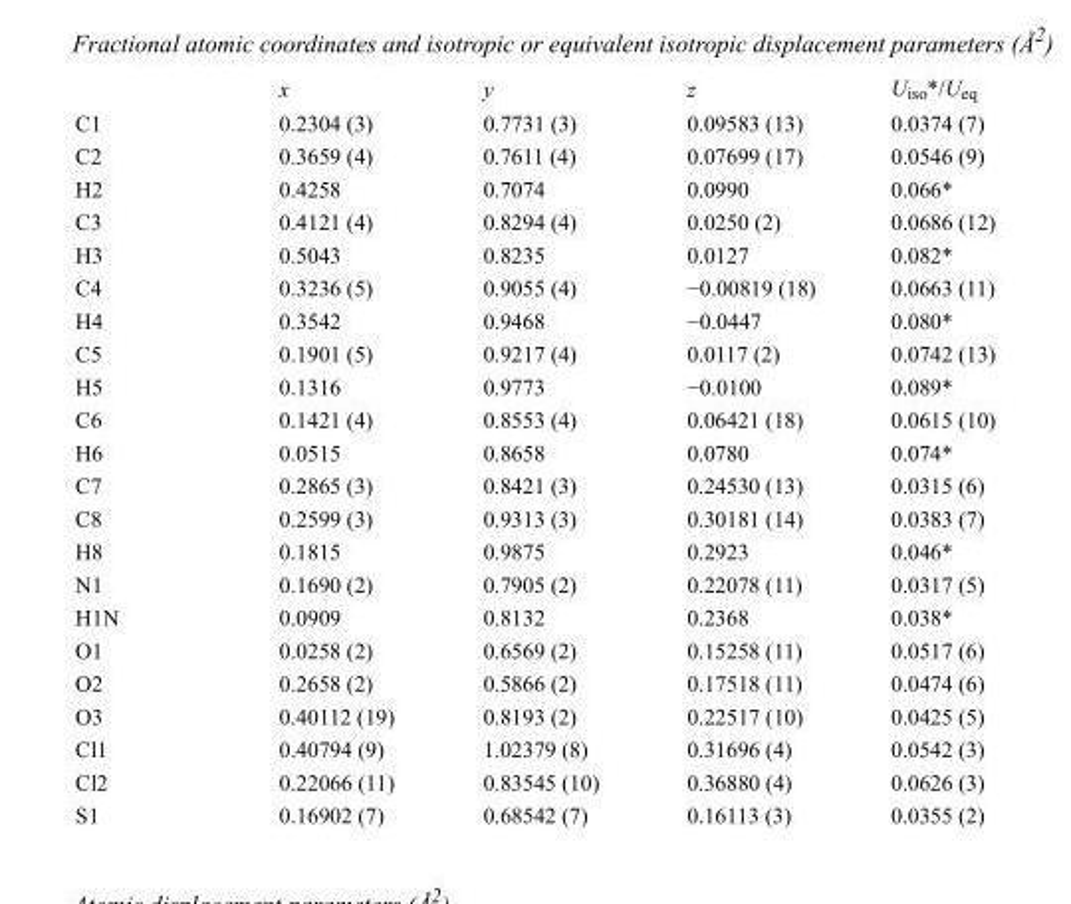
<table><thead><tr><td></td><td>x</td><td>y</td><td>z</td><td>U<sub>iso</sub>*/U<sub>eq</sub></td></tr></thead><tbody><tr><td>C1</td><td>0.2304 (3)</td><td>0.7731 (3)</td><td>0.09583 (13)</td><td>0.0374 (7)</td></tr><tr><td>C2</td><td>0.3659 (4)</td><td>0.7611 (4)</td><td>0.07699 (17)</td><td>0.0546 (9)</td></tr><tr><td>H2</td><td>0.4258</td><td>0.7074</td><td>0.0990</td><td>0.066*</td></tr><tr><td>C3</td><td>0.4121 (4)</td><td>0.8294 (4)</td><td>0.0250 (2)</td><td>0.0686 (12)</td></tr><tr><td>H3</td><td>0.5043</td><td>0.8235</td><td>0.0127</td><td>0.082*</td></tr><tr><td>C4</td><td>0.3236 (5)</td><td>0.9055 (4)</td><td>−0.00819 (18)</td><td>0.0663 (11)</td></tr><tr><td>H4</td><td>0.3542</td><td>0.9468</td><td>−0.0447</td><td>0.080*</td></tr><tr><td>C5</td><td>0.1901 (5)</td><td>0.9217 (4)</td><td>0.0117 (2)</td><td>0.0742 (13)</td></tr><tr><td>H5</td><td>0.1316</td><td>0.9773</td><td>−0.0100</td><td>0.089*</td></tr><tr><td>C6</td><td>0.1421 (4)</td><td>0.8553 (4)</td><td>0.06421 (18)</td><td>0.0615 (10)</td></tr><tr><td>H6</td><td>0.0515</td><td>0.8658</td><td>0.0780</td><td>0.074*</td></tr><tr><td>C7</td><td>0.2865 (3)</td><td>0.8421 (3)</td><td>0.24530 (13)</td><td>0.0315 (6)</td></tr><tr><td>C8</td><td>0.2599 (3)</td><td>0.9313 (3)</td><td>0.30181 (14)</td><td>0.0383 (7)</td></tr><tr><td>H8</td><td>0.1815</td><td>0.9875</td><td>0.2923</td><td>0.046*</td></tr><tr><td>N1</td><td>0.1690 (2)</td><td>0.7905 (2)</td><td>0.22078 (11)</td><td>0.0317 (5)</td></tr><tr><td>H1N</td><td>0.0909</td><td>0.8132</td><td>0.2368</td><td>0.038*</td></tr><tr><td>O1</td><td>0.0258 (2)</td><td>0.6569 (2)</td><td>0.15258 (11)</td><td>0.0517 (6)</td></tr><tr><td>O2</td><td>0.2658 (2)</td><td>0.5866 (2)</td><td>0.17518 (11)</td><td>0.0474 (6)</td></tr><tr><td>O3</td><td>0.40112 (19)</td><td>0.8193 (2)</td><td>0.22517 (10)</td><td>0.0425 (5)</td></tr><tr><td>Cl1</td><td>0.40794 (9)</td><td>1.02379 (8)</td><td>0.31696 (4)</td><td>0.0542 (3)</td></tr><tr><td>Cl2</td><td>0.22066 (11)</td><td>0.83545 (10)</td><td>0.36880 (4)</td><td>0.0626 (3)</td></tr><tr><td>S1</td><td>0.16902 (7)</td><td>0.68542 (7)</td><td>0.16113 (3)</td><td>0.0355 (2)</td></tr></tbody></table>